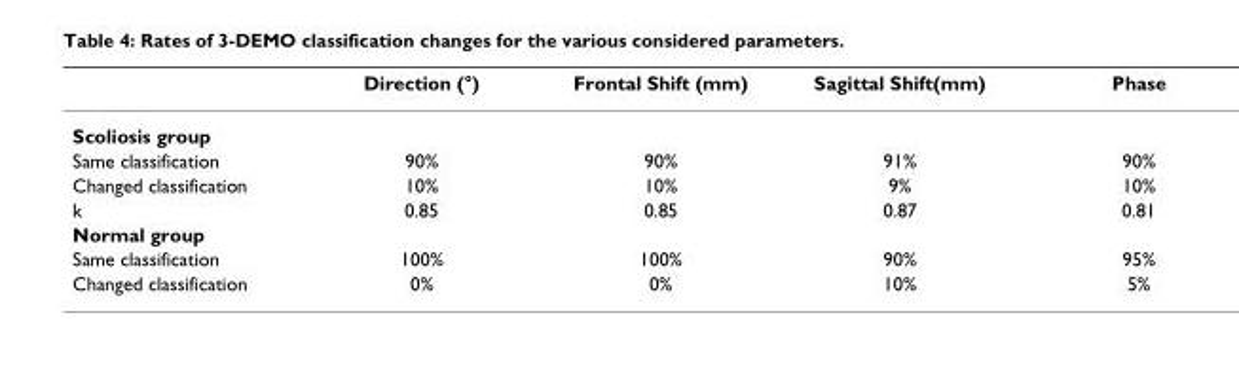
<table><thead><tr><td></td><td>Direction (°)</td><td>Frontal Shift (mm)</td><td>Sagittal Shift(mm)</td><td>Phase</td></tr></thead><tbody><tr><td colspan="5">Scoliosis group</td></tr><tr><td>Same classification</td><td>90%</td><td>90%</td><td>91%</td><td>90%</td></tr><tr><td>Changed classification</td><td>10%</td><td>10%</td><td>9%</td><td>10%</td></tr><tr><td>k</td><td>0.85</td><td>0.85</td><td>0.87</td><td>0.81</td></tr><tr><td colspan="5">Normal group</td></tr><tr><td>Same classification</td><td>100%</td><td>100%</td><td>90%</td><td>95%</td></tr><tr><td>Changed classification</td><td>0%</td><td>0%</td><td>10%</td><td>5%</td></tr></tbody></table>